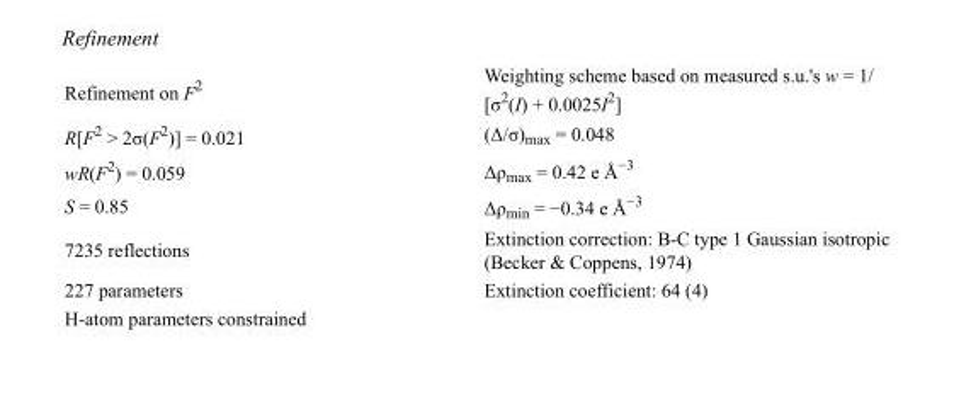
<table><tbody><tr><td>Refinement on F<sup>2</sup></td><td>Weighting scheme based on measured s.u.&#x27;s w = 1/ [σ<sup>2</sup>(I) + 0.0025I<sup>2</sup>]</td></tr><tr><td>R[F<sup>2</sup> &gt; 2σ(F<sup>2</sup>)] = 0.021</td><td>(Δ/σ)<sub>max</sub> = 0.048</td></tr><tr><td>wR(F<sup>2</sup>) = 0.059</td><td>Δρ<sub>max</sub> = 0.42 e Å<sup>−3</sup></td></tr><tr><td>S = 0.85</td><td>Δρ<sub>min</sub> = −0.34 e Å<sup>−3</sup></td></tr><tr><td>7235 reflections</td><td>Extinction correction: B-C type 1 Gaussian isotropic (Becker &amp; Coppens, 1974)</td></tr><tr><td>227 parameters</td><td>Extinction coefficient: 64 (4)</td></tr><tr><td>H-atom parameters constrained</td><td></td></tr></tbody></table>